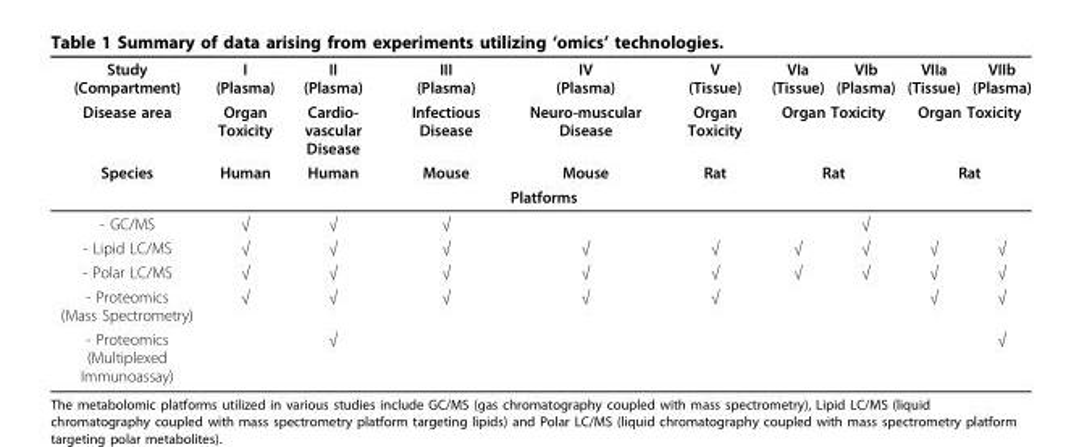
<table><thead><tr><td rowspan="3">Study (Compartment) Disease area Species</td><td rowspan="3">I (Plasma) Organ Toxicity Human</td><td rowspan="3">II (Plasma) Cardio- vascular Disease Human</td><td rowspan="3">III (Plasma) Infectious Disease Mouse</td><td rowspan="3">IV (Plasma) Neuro-muscular Disease Mouse</td><td rowspan="3">V (Tissue) Organ Toxicity Rat</td><td>VIa (Tissue)</td><td>VIb (Plasma)</td><td>VIIa (Tissue)</td><td>VIIb (Plasma)</td></tr><tr><td rowspan="2" colspan="2">Organ Toxicity Rat</td><td rowspan="2" colspan="2">Organ Toxicity Rat</td></tr><tr></tr><tr><td colspan="10">Platforms</td></tr></thead><tbody><tr><td>- GC/MS</td><td>√</td><td>√</td><td>√</td><td></td><td></td><td></td><td>√</td><td></td><td></td></tr><tr><td>- Lipid LC/MS</td><td>√</td><td>√</td><td>√</td><td>√</td><td>√</td><td>√</td><td>√</td><td>√</td><td>√</td></tr><tr><td>- Polar LC/MS</td><td>√</td><td>√</td><td>√</td><td>√</td><td>√</td><td>√</td><td>√</td><td>√</td><td>√</td></tr><tr><td>- Proteomics (Mass Spectrometry)</td><td>√</td><td>√</td><td>√</td><td>√</td><td>√</td><td></td><td></td><td>√</td><td>√</td></tr><tr><td>- Proteomics (Multiplexed Immunoassay)</td><td></td><td>√</td><td></td><td></td><td></td><td></td><td></td><td></td><td>√</td></tr></tbody></table>